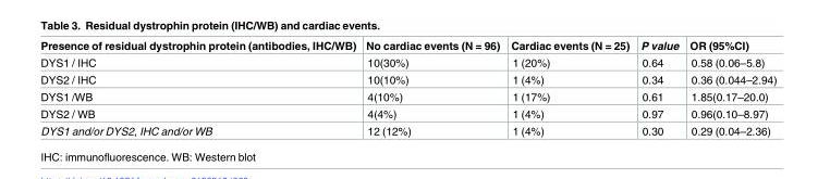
<table><thead><tr><td>Presence of residual dystrophin protein (antibodies, IHC/WB)</td><td>No cardiac events (N = 96)</td><td>Cardiac events (N = 25)</td><td>P value</td><td>OR (95%CI)</td></tr></thead><tbody><tr><td>DYS1 / IHC</td><td>10(30%)</td><td>1 (20%)</td><td>0.64</td><td>0.58 (0.06–5.8)</td></tr><tr><td>DYS2 / IHC</td><td>10(10%)</td><td>1 (4%)</td><td>0.34</td><td>0.36 (0.044–2.94)</td></tr><tr><td>DYS1 /WB</td><td>4(10%)</td><td>1 (17%)</td><td>0.61</td><td>1.85(0.17–20.0)</td></tr><tr><td>DYS2 / WB</td><td>4(4%)</td><td>1 (4%)</td><td>0.97</td><td>0.96(0.10–8.97)</td></tr><tr><td>DYS1 and/or DYS2, IHC and/or WB</td><td>12 (12%)</td><td>1 (4%)</td><td>0.30</td><td>0.29 (0.04–2.36)</td></tr></tbody></table>